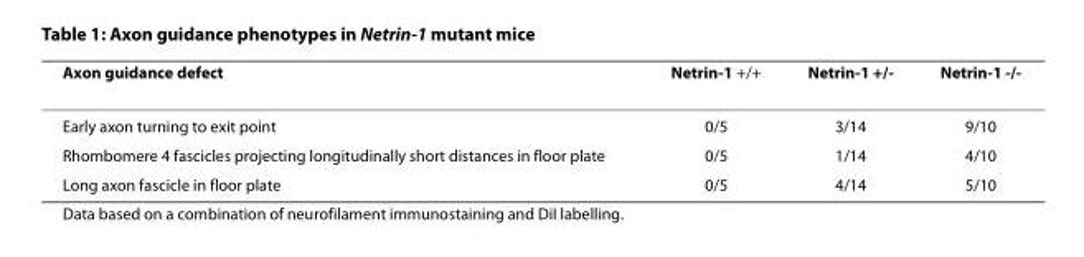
<table><thead><tr><td>Axon guidance defect</td><td>Netrin-1 +/+</td><td>Netrin-1 +/-</td><td>Netrin-1 -/-</td></tr></thead><tbody><tr><td>Early axon turning to exit point</td><td>0/5</td><td>3/14</td><td>9/10</td></tr><tr><td>Rhombomere 4 fascicles projecting longitudinally short distances in floor plate</td><td>0/5</td><td>1/14</td><td>4/10</td></tr><tr><td>Long axon fascicle in floor plate</td><td>0/5</td><td>4/14</td><td>5/10</td></tr></tbody></table>